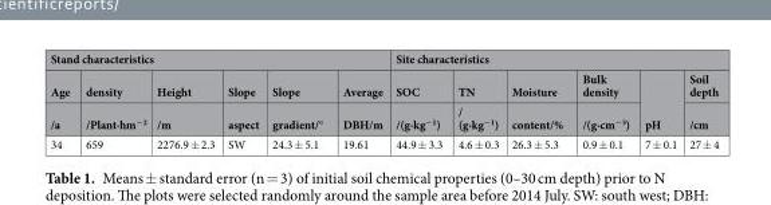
<table><thead><tr><td colspan="6">Stand characteristics</td><td colspan="6">Site characteristics</td></tr><tr><td rowspan="2">Age /a</td><td rowspan="2">density /Plant·hm<sup>−2</sup></td><td rowspan="2">Height /m</td><td rowspan="2">Slope aspect</td><td rowspan="2">Slope gradient/°</td><td rowspan="2">Average DBH/m</td><td rowspan="2">SOC /(g·kg<sup>−1</sup>)</td><td rowspan="2">TN / (g·kg<sup>−1</sup>)</td><td rowspan="2">Moisture content/%</td><td rowspan="2">Bulk density /(g·cm<sup>−3</sup>)</td><td rowspan="2">pH</td><td rowspan="2">Soil depth /cm</td></tr><tr></tr></thead><tbody><tr><td>34</td><td>659</td><td>2276.9 ± 2.3</td><td>SW</td><td>24.3 ± 5.1</td><td>19.61</td><td>44.9 ± 3.3</td><td>4.6 ± 0.3</td><td>26.3 ± 5.3</td><td>0.9 ± 0.1</td><td>7 ± 0.1</td><td>27 ± 4</td></tr></tbody></table>